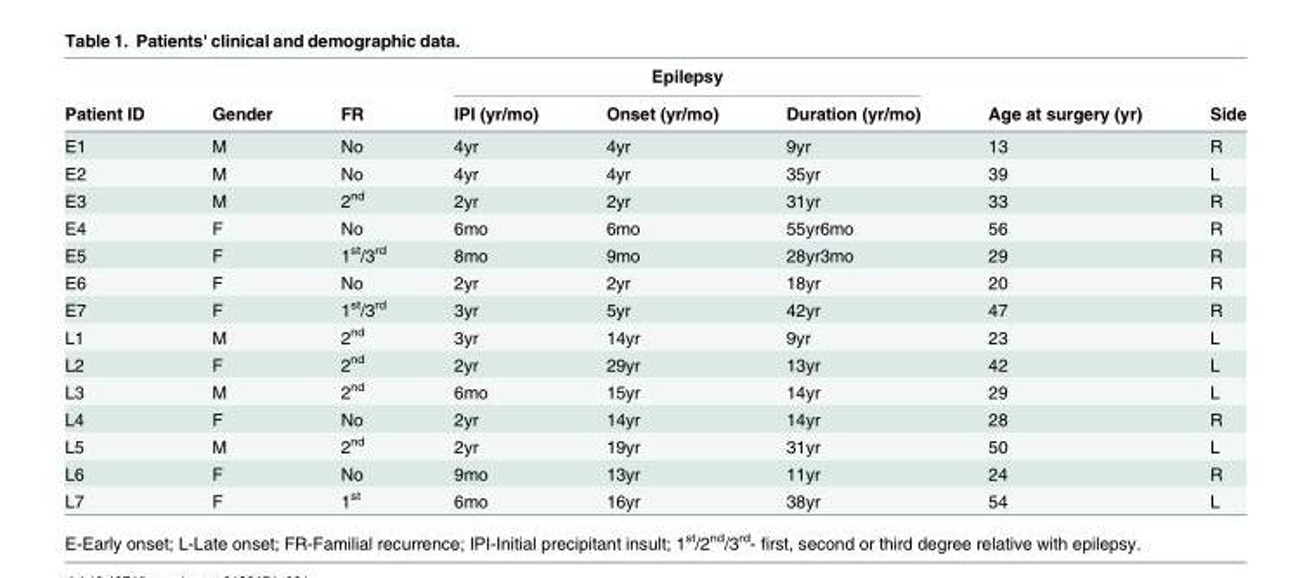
<table><thead><tr><td rowspan="2">Patient ID</td><td rowspan="2">Gender</td><td rowspan="2">FR</td><td colspan="3">Epilepsy</td><td rowspan="2">Age at surgery (yr)</td><td rowspan="2">Side</td></tr><tr><td>IPI (yr/mo)</td><td>Onset (yr/mo)</td><td>Duration (yr/mo)</td></tr></thead><tbody><tr><td>E1</td><td>M</td><td>No</td><td>4yr</td><td>4yr</td><td>9yr</td><td>13</td><td>R</td></tr><tr><td>E2</td><td>M</td><td>No</td><td>4yr</td><td>4yr</td><td>35yr</td><td>39</td><td>L</td></tr><tr><td>E3</td><td>M</td><td>2<sup>nd</sup></td><td>2yr</td><td>2yr</td><td>31yr</td><td>33</td><td>R</td></tr><tr><td>E4</td><td>F</td><td>No</td><td>6mo</td><td>6mo</td><td>55yr6mo</td><td>56</td><td>R</td></tr><tr><td>E5</td><td>F</td><td>1<sup>st</sup>/3<sup>rd</sup></td><td>8mo</td><td>9mo</td><td>28yr3mo</td><td>29</td><td>R</td></tr><tr><td>E6</td><td>F</td><td>No</td><td>2yr</td><td>2yr</td><td>18yr</td><td>20</td><td>R</td></tr><tr><td>E7</td><td>F</td><td>1<sup>st</sup>/3<sup>rd</sup></td><td>3yr</td><td>5yr</td><td>42yr</td><td>47</td><td>R</td></tr><tr><td>L1</td><td>M</td><td>2<sup>nd</sup></td><td>3yr</td><td>14yr</td><td>9yr</td><td>23</td><td>L</td></tr><tr><td>L2</td><td>F</td><td>2<sup>nd</sup></td><td>2yr</td><td>29yr</td><td>13yr</td><td>42</td><td>L</td></tr><tr><td>L3</td><td>M</td><td>2<sup>nd</sup></td><td>6mo</td><td>15yr</td><td>14yr</td><td>29</td><td>L</td></tr><tr><td>L4</td><td>F</td><td>No</td><td>2yr</td><td>14yr</td><td>14yr</td><td>28</td><td>R</td></tr><tr><td>L5</td><td>M</td><td>2<sup>nd</sup></td><td>2yr</td><td>19yr</td><td>31yr</td><td>50</td><td>L</td></tr><tr><td>L6</td><td>F</td><td>No</td><td>9mo</td><td>13yr</td><td>11yr</td><td>24</td><td>R</td></tr><tr><td>L7</td><td>F</td><td>1<sup>st</sup></td><td>6mo</td><td>16yr</td><td>38yr</td><td>54</td><td>L</td></tr></tbody></table>